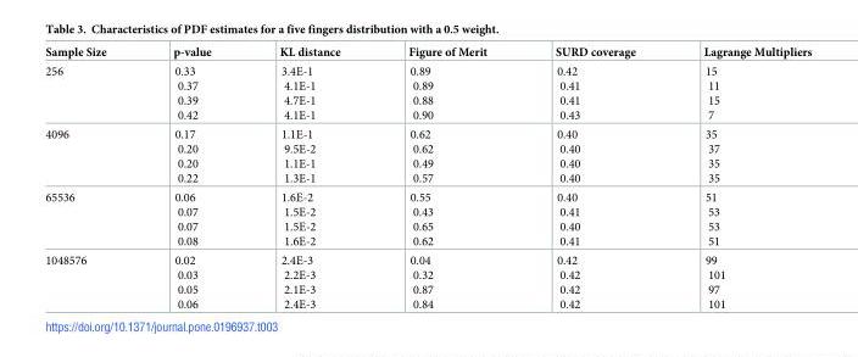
<table><thead><tr><td>Sample Size</td><td>p-value</td><td>KL distance</td><td>Figure of Merit</td><td>SURD coverage</td><td>Lagrange Multipliers</td></tr></thead><tbody><tr><td>256</td><td>0.33 0.37 0.39 0.42</td><td>3.4E-1 4.1E-1 4.7E-1 4.1E-1</td><td>0.89 0.89 0.88 0.90</td><td>0.42 0.41 0.41 0.43</td><td>15 11 15 7</td></tr><tr><td>4096</td><td>0.17 0.20 0.20 0.22</td><td>1.1E-1 9.5E-2 1.1E-1 1.3E-1</td><td>0.62 0.62 0.49 0.57</td><td>0.40 0.40 0.40 0.40</td><td>35 37 35 35</td></tr><tr><td>65536</td><td>0.06 0.07 0.07 0.08</td><td>1.6E-2 1.5E-2 1.5E-2 1.6E-2</td><td>0.55 0.43 0.65 0.62</td><td>0.40 0.41 0.40 0.41</td><td>51 53 53 51</td></tr><tr><td>1048576</td><td>0.02 0.03 0.05 0.06</td><td>2.4E-3 2.2E-3 2.1E-3 2.4E-3</td><td>0.04 0.32 0.87 0.84</td><td>0.42 0.42 0.42 0.42</td><td>99 101 97 101</td></tr></tbody></table>